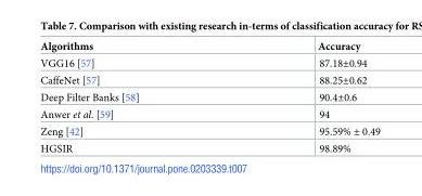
<table><thead><tr><td>Algorithms</td><td>Accuracy</td></tr></thead><tbody><tr><td>VGG16 [57]</td><td>87.18±0.94</td></tr><tr><td>CaffeNet [57]</td><td>88.25±0.62</td></tr><tr><td>Deep Filter Banks [58]</td><td>90.4±0.6</td></tr><tr><td>Anwer et al. [59]</td><td>94</td></tr><tr><td>Zeng [42]</td><td>95.59% ± 0.49</td></tr><tr><td>HGSIR</td><td>98.89%</td></tr></tbody></table>